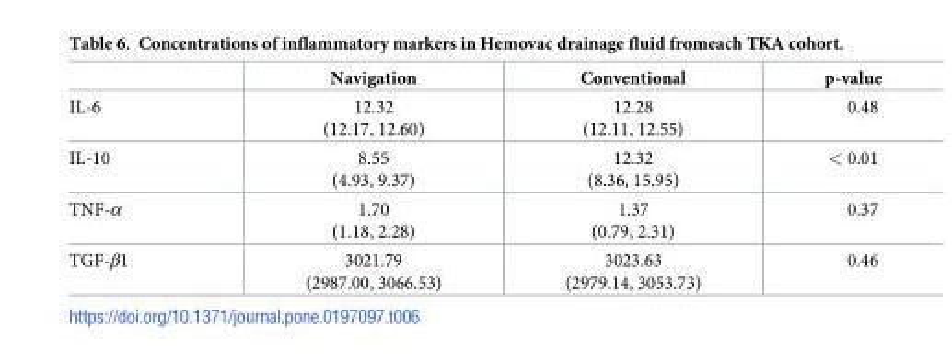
<table><thead><tr><td></td><td>Navigation</td><td>Conventional</td><td>p-value</td></tr></thead><tbody><tr><td>IL-6</td><td>12.32 (12.17, 12.60)</td><td>12.28 (12.11, 12.55)</td><td>0.48</td></tr><tr><td>IL-10</td><td>8.55 (4.93, 9.37)</td><td>12.32 (8.36, 15.95)</td><td>&lt; 0.01</td></tr><tr><td>TNF-α</td><td>1.70 (1.18, 2.28)</td><td>1.37 (0.79, 2.31)</td><td>0.37</td></tr><tr><td>TGF-β1</td><td>3021.79 (2987.00, 3066.53)</td><td>3023.63 (2979.14, 3053.73)</td><td>0.46</td></tr></tbody></table>